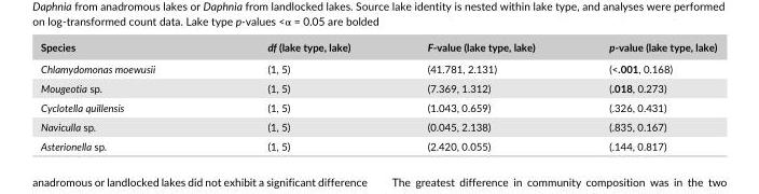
<table><thead><tr><td>Species</td><td>df (lake type, lake)</td><td>F- value (lake type, lake)</td><td>p- value (lake type, lake)</td></tr></thead><tbody><tr><td>Chlamydomonas moewusii</td><td>(1, 5)</td><td>(41.781, 2.131)</td><td>(&lt;.001, 0.168)</td></tr><tr><td>Mougeotia sp.</td><td>(1, 5)</td><td>(7.369, 1.312)</td><td>(.018, 0.273)</td></tr><tr><td>Cyclotella quillensis</td><td>(1, 5)</td><td>(1.043, 0.659)</td><td>(.326, 0.431)</td></tr><tr><td>Naviculla sp.</td><td>(1, 5)</td><td>(0.045, 2.138)</td><td>(.835, 0.167)</td></tr><tr><td>Asterionella sp.</td><td>(1, 5)</td><td>(2.420, 0.055)</td><td>(.144, 0.817)</td></tr></tbody></table>